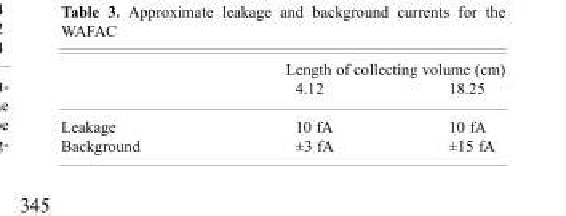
<table><thead><tr><td rowspan="2"></td><td colspan="2">Length of collecting volume (cm)</td></tr><tr><td>4.12</td><td>18.25</td></tr></thead><tbody><tr><td>Leakage</td><td>10 fA</td><td>10 fA</td></tr><tr><td>Background</td><td>±3 fA</td><td>±15 fA</td></tr></tbody></table>